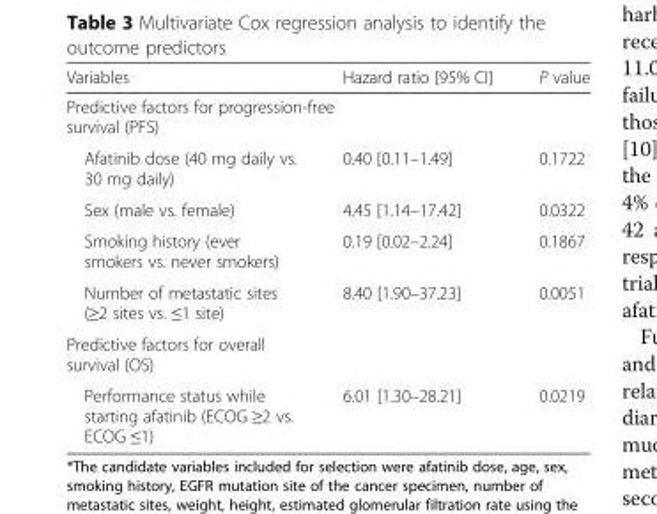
<table><thead><tr><td>Variables</td><td>Hazard ratio [95% CI]</td><td>P value</td></tr></thead><tbody><tr><td colspan="3">Predictive factors for progression-free survival (PFS)</td></tr><tr><td>Afatinib dose (40 mg daily vs. 30 mg daily)</td><td>0.40 [0.11–1.49]</td><td>0.1722</td></tr><tr><td>Sex (male vs. female)</td><td>4.45 [1.14–17.42]</td><td>0.0322</td></tr><tr><td>Smoking history (ever smokers vs. never smokers)</td><td>0.19 [0.02–2.24]</td><td>0.1867</td></tr><tr><td>Number of metastatic sites (≥2 sites vs. ≤1 site)</td><td>8.40 [1.90–37.23]</td><td>0.0051</td></tr><tr><td colspan="3">Predictive factors for overall survival (OS)</td></tr><tr><td>Performance status while starting afatinib (ECOG ≥2 vs. ECOG ≤1)</td><td>6.01 [1.30–28.21]</td><td>0.0219</td></tr></tbody></table>